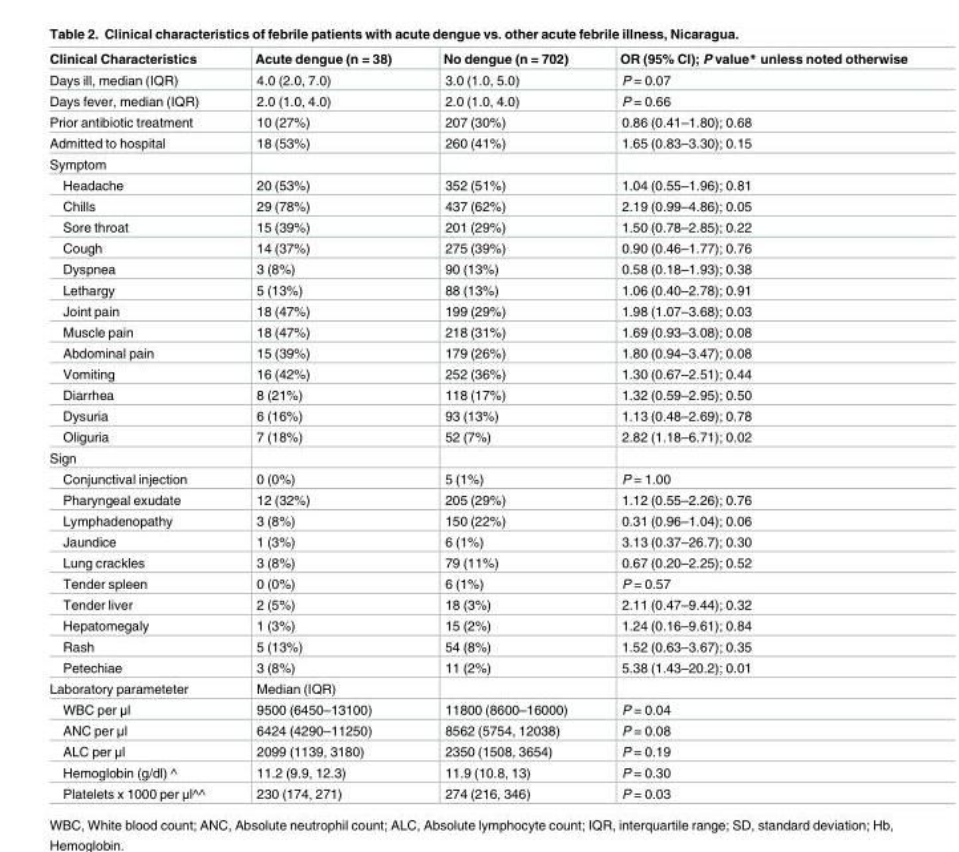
<table><thead><tr><td>Clinical Characteristics</td><td>Acute dengue (n = 38)</td><td>No dengue (n = 702)</td><td>OR (95% CI); P value* unless noted otherwise</td></tr></thead><tbody><tr><td>Days ill, median (IQR)</td><td>4.0 (2.0, 7.0)</td><td>3.0 (1.0, 5.0)</td><td>P = 0.07</td></tr><tr><td>Days fever, median (IQR)</td><td>2.0 (1.0, 4.0)</td><td>2.0 (1.0, 4.0)</td><td>P = 0.66</td></tr><tr><td>Prior antibiotic treatment</td><td>10 (27%)</td><td>207 (30%)</td><td>0.86 (0.41–1.80); 0.68</td></tr><tr><td>Admitted to hospital</td><td>18 (53%)</td><td>260 (41%)</td><td>1.65 (0.83–3.30); 0.15</td></tr><tr><td colspan="4">Symptom</td></tr><tr><td>Headache</td><td>20 (53%)</td><td>352 (51%)</td><td>1.04 (0.55–1.96); 0.81</td></tr><tr><td>Chills</td><td>29 (78%)</td><td>437 (62%)</td><td>2.19 (0.99–4.86); 0.05</td></tr><tr><td>Sore throat</td><td>15 (39%)</td><td>201 (29%)</td><td>1.50 (0.78–2.85); 0.22</td></tr><tr><td>Cough</td><td>14 (37%)</td><td>275 (39%)</td><td>0.90 (0.46–1.77); 0.76</td></tr><tr><td>Dyspnea</td><td>3 (8%)</td><td>90 (13%)</td><td>0.58 (0.18–1.93); 0.38</td></tr><tr><td>Lethargy</td><td>5 (13%)</td><td>88 (13%)</td><td>1.06 (0.40–2.78); 0.91</td></tr><tr><td>Joint pain</td><td>18 (47%)</td><td>199 (29%)</td><td>1.98 (1.07–3.68); 0.03</td></tr><tr><td>Muscle pain</td><td>18 (47%)</td><td>218 (31%)</td><td>1.69 (0.93–3.08); 0.08</td></tr><tr><td>Abdominal pain</td><td>15 (39%)</td><td>179 (26%)</td><td>1.80 (0.94–3.47); 0.08</td></tr><tr><td>Vomiting</td><td>16 (42%)</td><td>252 (36%)</td><td>1.30 (0.67–2.51); 0.44</td></tr><tr><td>Diarrhea</td><td>8 (21%)</td><td>118 (17%)</td><td>1.32 (0.59–2.95); 0.50</td></tr><tr><td>Dysuria</td><td>6 (16%)</td><td>93 (13%)</td><td>1.13 (0.48–2.69); 0.78</td></tr><tr><td>Oliguria</td><td>7 (18%)</td><td>52 (7%)</td><td>2.82 (1.18–6.71); 0.02</td></tr><tr><td colspan="4">Sign</td></tr><tr><td>Conjunctival injection</td><td>0 (0%)</td><td>5 (1%)</td><td>P = 1.00</td></tr><tr><td>Pharyngeal exudate</td><td>12 (32%)</td><td>205 (29%)</td><td>1.12 (0.55–2.26); 0.76</td></tr><tr><td>Lymphadenopathy</td><td>3 (8%)</td><td>150 (22%)</td><td>0.31 (0.96–1.04); 0.06</td></tr><tr><td>Jaundice</td><td>1 (3%)</td><td>6 (1%)</td><td>3.13 (0.37–26.7); 0.30</td></tr><tr><td>Lung crackles</td><td>3 (8%)</td><td>79 (11%)</td><td>0.67 (0.20–2.25); 0.52</td></tr><tr><td>Tender spleen</td><td>0 (0%)</td><td>6 (1%)</td><td>P = 0.57</td></tr><tr><td>Tender liver</td><td>2 (5%)</td><td>18 (3%)</td><td>2.11 (0.47–9.44); 0.32</td></tr><tr><td>Hepatomegaly</td><td>1 (3%)</td><td>15 (2%)</td><td>1.24 (0.16–9.61); 0.84</td></tr><tr><td>Rash</td><td>5 (13%)</td><td>54 (8%)</td><td>1.52 (0.63–3.67); 0.35</td></tr><tr><td>Petechiae</td><td>3 (8%)</td><td>11 (2%)</td><td>5.38 (1.43–20.2); 0.01</td></tr><tr><td>Laboratory parameteter</td><td>Median (IQR)</td><td></td><td></td></tr><tr><td>WBC per μl</td><td>9500 (6450–13100)</td><td>11800 (8600–16000)</td><td>P = 0.04</td></tr><tr><td>ANC per μl</td><td>6424 (4290–11250)</td><td>8562 (5754, 12038)</td><td>P = 0.08</td></tr><tr><td>ALC per μl</td><td>2099 (1139, 3180)</td><td>2350 (1508, 3654)</td><td>P = 0.19</td></tr><tr><td>Hemoglobin (g/dl) ^</td><td>11.2 (9.9, 12.3)</td><td>11.9 (10.8, 13)</td><td>P = 0.30</td></tr><tr><td>Platelets x 1000 per μl^^</td><td>230 (174, 271)</td><td>274 (216, 346)</td><td>P = 0.03</td></tr></tbody></table>